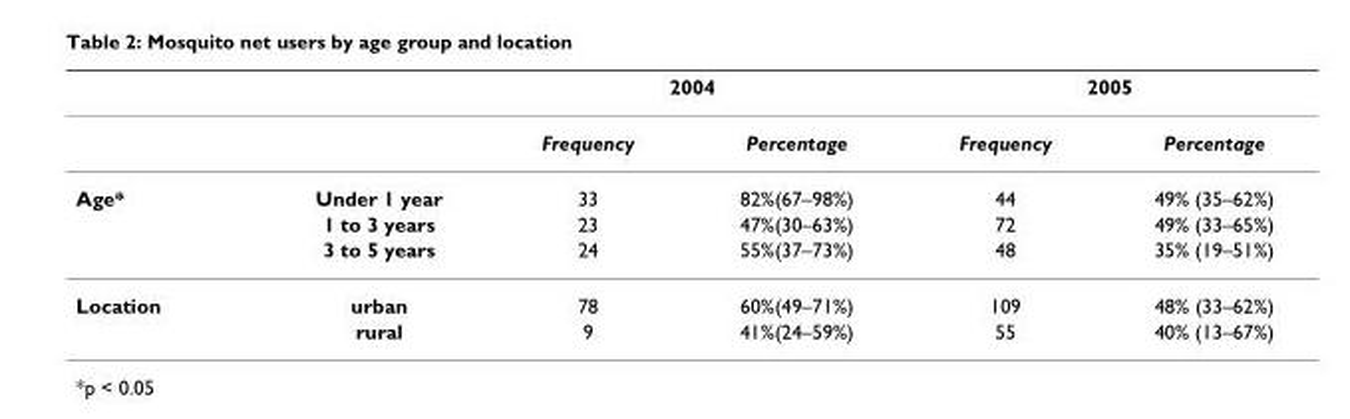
<table><thead><tr><td rowspan="2"></td><td rowspan="2"></td><td colspan="2">2004</td><td colspan="2">2005</td></tr><tr><td>Frequency</td><td>Percentage</td><td>Frequency</td><td>Percentage</td></tr></thead><tbody><tr><td rowspan="3">Age*</td><td>Under 1 year</td><td>33</td><td>82%(67–98%)</td><td>44</td><td>49% (35–62%)</td></tr><tr><td>1 to 3 years</td><td>23</td><td>47%(30–63%)</td><td>72</td><td>49% (33–65%)</td></tr><tr><td>3 to 5 years</td><td>24</td><td>55%(37–73%)</td><td>48</td><td>35% (19–51%)</td></tr><tr><td rowspan="2">Location</td><td>urban</td><td>78</td><td>60%(49–71%)</td><td>109</td><td>48% (33–62%)</td></tr><tr><td>rural</td><td>9</td><td>41%(24–59%)</td><td>55</td><td>40% (13–67%)</td></tr></tbody></table>